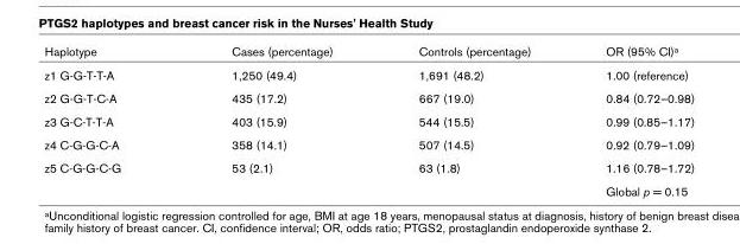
<table><thead><tr><td>Haplotype</td><td>Cases (percentage)</td><td>Controls (percentage)</td><td>OR (95% CI)a</td></tr></thead><tbody><tr><td>z1 G-G-T-T-A</td><td>1,250 (49.4)</td><td>1,691 (48.2)</td><td>1.00 (reference)</td></tr><tr><td>z2 G-G-T-C-A</td><td>435 (17.2)</td><td>667 (19.0)</td><td>0.84 (0.72–0.98)</td></tr><tr><td>z3 G-C-T-T-A</td><td>403 (15.9)</td><td>544 (15.5)</td><td>0.99 (0.85–1.17)</td></tr><tr><td>z4 C-G-G-C-A</td><td>358 (14.1)</td><td>507 (14.5)</td><td>0.92 (0.79–1.09)</td></tr><tr><td rowspan="2">z5 C-G-G-C-G</td><td>53 (2.1)</td><td>63 (1.8)</td><td>1.16 (0.78–1.72)</td></tr><tr><td></td><td></td><td>Global p = 0.15</td></tr></tbody></table>